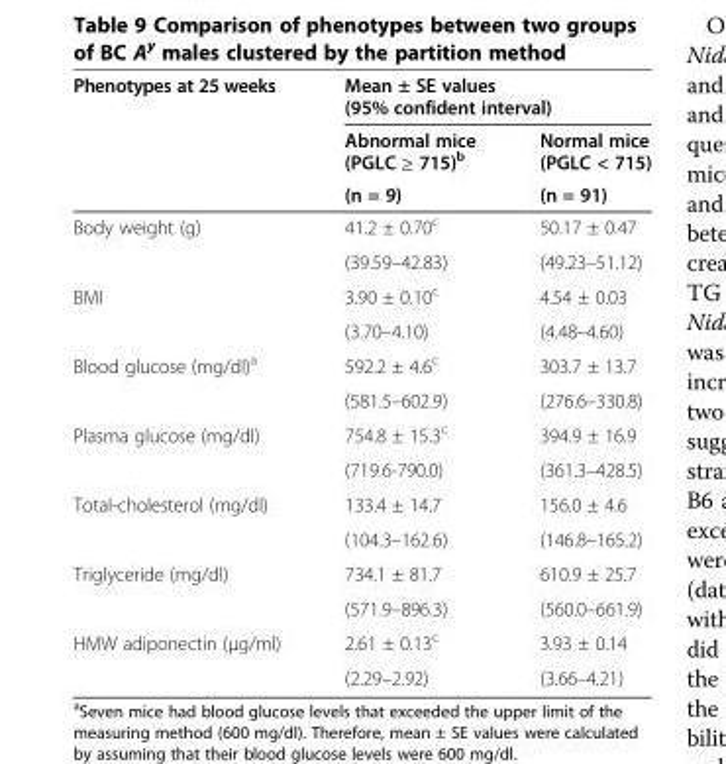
<table><thead><tr><td rowspan="3">Phenotypes at 25 weeks</td><td colspan="2">Mean ± SE values (95% confident interval)</td></tr><tr><td rowspan="2">Abnormal mice (PGLC ≥ 715)<sup>b</sup> (n = 9)</td><td rowspan="2">Normal mice (PGLC &lt; 715) (n = 91)</td></tr><tr></tr></thead><tbody><tr><td rowspan="2">Body weight (g)</td><td>41.2 ± 0.70<sup>c</sup></td><td>50.17 ± 0.47</td></tr><tr><td>(39.59–42.83)</td><td>(49.23–51.12)</td></tr><tr><td rowspan="2">BMI</td><td>3.90 ± 0.10<sup>c</sup></td><td>4.54 ± 0.03</td></tr><tr><td>(3.70–4.10)</td><td>(4.48–4.60)</td></tr><tr><td rowspan="2">Blood glucose (mg/dl)<sup>a</sup></td><td>592.2 ± 4.6<sup>c</sup></td><td>303.7 ± 13.7</td></tr><tr><td>(581.5–602.9)</td><td>(276.6–330.8)</td></tr><tr><td rowspan="2">Plasma glucose (mg/dl)</td><td>754.8 ± 15.3<sup>c</sup></td><td>394.9 ± 16.9</td></tr><tr><td>(719.6-790.0)</td><td>(361.3–428.5)</td></tr><tr><td rowspan="2">Total-cholesterol (mg/dl)</td><td>133.4 ± 14.7</td><td>156.0 ± 4.6</td></tr><tr><td>(104.3–162.6)</td><td>(146.8–165.2)</td></tr><tr><td rowspan="2">Triglyceride (mg/dl)</td><td>734.1 ± 81.7</td><td>610.9 ± 25.7</td></tr><tr><td>(571.9–896.3)</td><td>(560.0–661.9)</td></tr><tr><td rowspan="2">HMW adiponectin (μg/ml)</td><td>2.61 ± 0.13<sup>c</sup></td><td>3.93 ± 0.14</td></tr><tr><td>(2.29–2.92)</td><td>(3.66–4.21)</td></tr></tbody></table>